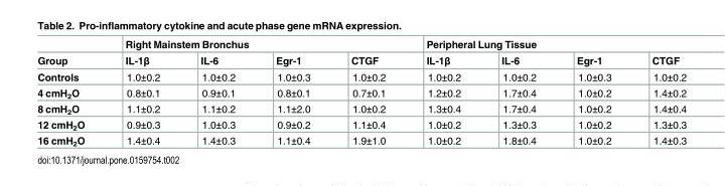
<table><thead><tr><td rowspan="2">Group</td><td colspan="4">Right Mainstem Bronchus</td><td colspan="4">Peripheral Lung Tissue</td></tr><tr><td>IL-1β</td><td>IL-6</td><td>Egr-1</td><td>CTGF</td><td>IL-1β</td><td>IL-6</td><td>Egr-1</td><td>CTGF</td></tr></thead><tbody><tr><td>Controls</td><td>1.0±0.2</td><td>1.0±0.2</td><td>1.0±0.3</td><td>1.0±0.2</td><td>1.0±0.2</td><td>1.0±0.2</td><td>1.0±0.3</td><td>1.0±0.2</td></tr><tr><td>4 cmH<sub>2</sub>O</td><td>0.8±0.1</td><td>0.9±0.1</td><td>0.8±0.1</td><td>0.7±0.1</td><td>1.2±0.2</td><td>1.7±0.4</td><td>1.0±0.2</td><td>1.4±0.2</td></tr><tr><td>8 cmH<sub>2</sub>O</td><td>1.1±0.2</td><td>1.1±0.2</td><td>1.1±2.0</td><td>1.0±0.2</td><td>1.3±0.4</td><td>1.7±0.4</td><td>1.0±0.2</td><td>1.4±0.4</td></tr><tr><td>12 cmH<sub>2</sub>O</td><td>0.9±0.3</td><td>1.0±0.3</td><td>0.9±0.2</td><td>1.1±0.4</td><td>1.0±0.2</td><td>1.3±0.3</td><td>1.0±0.2</td><td>1.3±0.3</td></tr><tr><td>16 cmH<sub>2</sub>O</td><td>1.4±0.4</td><td>1.4±0.3</td><td>1.1±0.4</td><td>1.9±1.0</td><td>1.0±0.2</td><td>1.8±0.4</td><td>1.0±0.2</td><td>1.4±0.3</td></tr></tbody></table>